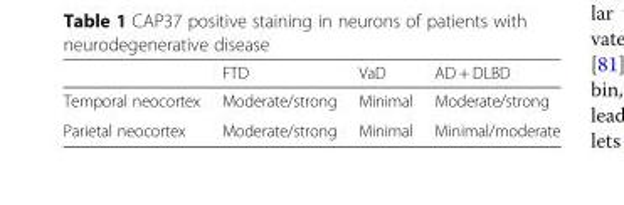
<table><thead><tr><td></td><td>FTD</td><td>VaD</td><td>AD + DLBD</td></tr></thead><tbody><tr><td>Temporal neocortex</td><td>Moderate/strong</td><td>Minimal</td><td>Moderate/strong</td></tr><tr><td>Parietal neocortex</td><td>Moderate/strong</td><td>Minimal</td><td>Minimal/moderate</td></tr></tbody></table>